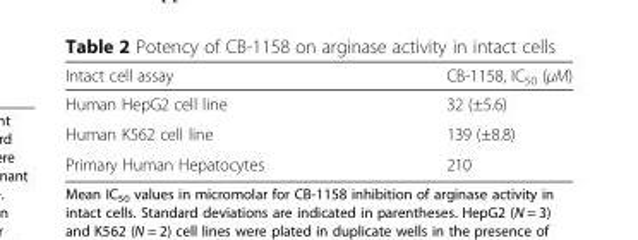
<table><thead><tr><td>Intact cell assay</td><td>CB-1158, IC<sub>50</sub> (μM)</td></tr></thead><tbody><tr><td>Human HepG2 cell line</td><td>32 (±5.6)</td></tr><tr><td>Human K562 cell line</td><td>139 (±8.8)</td></tr><tr><td>Primary Human Hepatocytes</td><td>210</td></tr></tbody></table>